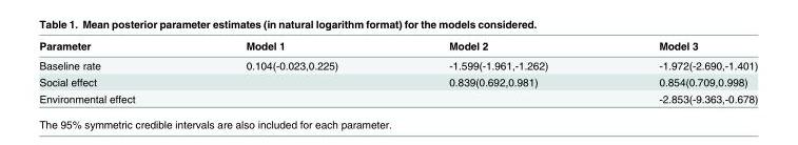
<table><thead><tr><td>Parameter</td><td>Model 1</td><td>Model 2</td><td>Model 3</td></tr></thead><tbody><tr><td>Baseline rate</td><td>0.104(-0.023,0.225)</td><td>-1.599(-1.961,-1.262)</td><td>-1.972(-2.690,-1.401)</td></tr><tr><td>Social effect</td><td></td><td>0.839(0.692,0.981)</td><td>0.854(0.709,0.998)</td></tr><tr><td>Environmental effect</td><td></td><td></td><td>-2.853(-9.363,-0.678)</td></tr></tbody></table>